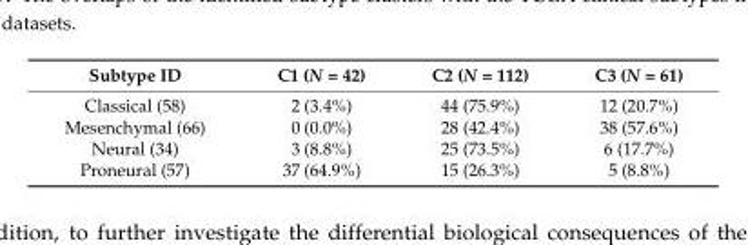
<table><thead><tr><td>Subtype ID</td><td>C1 (N = 42)</td><td>C2 (N = 112)</td><td>C3 (N = 61)</td></tr></thead><tbody><tr><td>Classical (58)</td><td>2 (3.4%)</td><td>44 (75.9%)</td><td>12 (20.7%)</td></tr><tr><td>Mesenchymal (66)</td><td>0 (0.0%)</td><td>28 (42.4%)</td><td>38 (57.6%)</td></tr><tr><td>Neural (34)</td><td>3 (8.8%)</td><td>25 (73.5%)</td><td>6 (17.7%)</td></tr><tr><td>Proneural (57)</td><td>37 (64.9%)</td><td>15 (26.3%)</td><td>5 (8.8%)</td></tr></tbody></table>